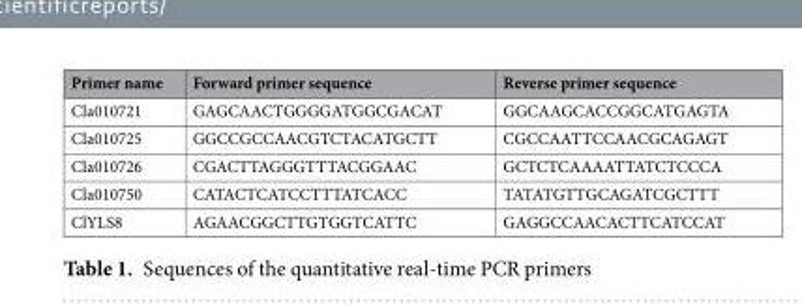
<table><thead><tr><td>Primer name</td><td>Forward primer sequence</td><td>Reverse primer sequence</td></tr></thead><tbody><tr><td>Cla010721</td><td>GAGCAACTGGGGATGGCGACAT</td><td>GGCAAGCACCGGCATGAGTA</td></tr><tr><td>Cla010725</td><td>GGCCGCCAACGTCTACATGCTT</td><td>CGCCAATTCCAACGCAGAGT</td></tr><tr><td>Cla010726</td><td>CGACTTAGGGTTTACGGAAC</td><td>GCTCTCAAAATTATCTCCCA</td></tr><tr><td>Cla010750</td><td>CATACTCATCCTTTATCACC</td><td>TATATGTTGCAGATCGCTTT</td></tr><tr><td>ClYLS8</td><td>AGAACGGCTTGTGGTCATTC</td><td>GAGGCCAACACTTCATCCAT</td></tr></tbody></table>